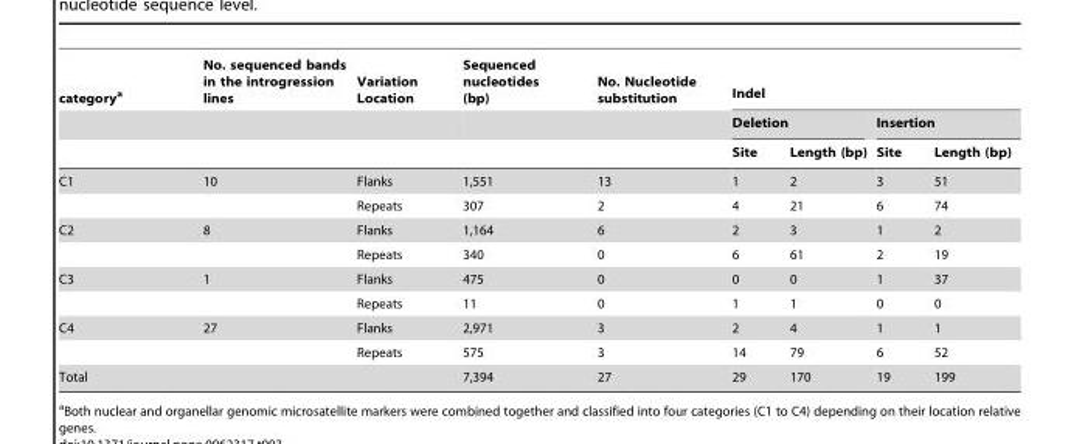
<table><thead><tr><td rowspan="3">category<sup>a</sup></td><td rowspan="3">No. sequenced bands in the introgression lines</td><td rowspan="3">Variation Location</td><td rowspan="3">Sequenced nucleotides (bp)</td><td rowspan="3">No. Nucleotide substitution</td><td colspan="4">Indel</td></tr><tr><td colspan="2">Deletion</td><td colspan="2">Insertion</td></tr><tr><td>Site</td><td>Length (bp)</td><td>Site</td><td>Length (bp)</td></tr></thead><tbody><tr><td rowspan="2">C1</td><td>10</td><td>Flanks</td><td>1,551</td><td>13</td><td>1</td><td>2</td><td>3</td><td>51</td></tr><tr><td></td><td>Repeats</td><td>307</td><td>2</td><td>4</td><td>21</td><td>6</td><td>74</td></tr><tr><td rowspan="2">C2</td><td>8</td><td>Flanks</td><td>1,164</td><td>6</td><td>2</td><td>3</td><td>1</td><td>2</td></tr><tr><td></td><td>Repeats</td><td>340</td><td>0</td><td>6</td><td>61</td><td>2</td><td>19</td></tr><tr><td rowspan="2">C3</td><td>1</td><td>Flanks</td><td>475</td><td>0</td><td>0</td><td>0</td><td>1</td><td>37</td></tr><tr><td></td><td>Repeats</td><td>11</td><td>0</td><td>1</td><td>1</td><td>0</td><td>0</td></tr><tr><td rowspan="2">C4</td><td>27</td><td>Flanks</td><td>2,971</td><td>3</td><td>2</td><td>4</td><td>1</td><td>1</td></tr><tr><td></td><td>Repeats</td><td>575</td><td>3</td><td>14</td><td>79</td><td>6</td><td>52</td></tr><tr><td colspan="3">Total</td><td>7,394</td><td>27</td><td>29</td><td>170</td><td>19</td><td>199</td></tr></tbody></table>